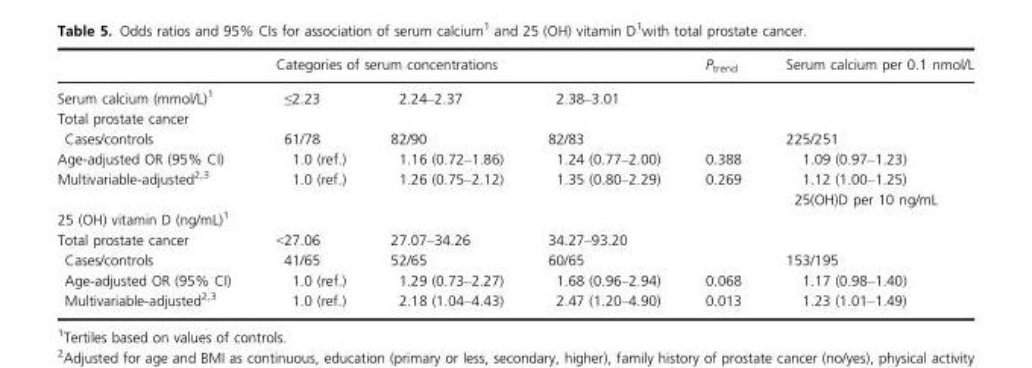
<table><thead><tr><td rowspan="2">Serum calcium (mmol/L)<sup>1</sup></td><td colspan="3">Categories of serum concentrations</td><td rowspan="2">P<sub>trend</sub></td><td rowspan="2">Serum calcium per 0.1 nmol/L</td></tr><tr><td>≤2.23</td><td>2.24–2.37</td><td>2.38–3.01</td></tr></thead><tbody><tr><td colspan="6">Total prostate cancer</td></tr><tr><td>Cases/controls</td><td>61/78</td><td>82/90</td><td>82/83</td><td></td><td>225/251</td></tr><tr><td>Age-adjusted OR (95% CI)</td><td>1.0 (ref.)</td><td>1.16 (0.72–1.86)</td><td>1.24 (0.77–2.00)</td><td>0.388</td><td>1.09 (0.97–1.23)</td></tr><tr><td rowspan="2">Multivariable-adjusted<sup>2,3</sup></td><td>1.0 (ref.)</td><td>1.26 (0.75–2.12)</td><td>1.35 (0.80–2.29)</td><td>0.269</td><td>1.12 (1.00–1.25)</td></tr><tr><td></td><td></td><td></td><td></td><td>25(OH)D per 10 ng/mL</td></tr><tr><td colspan="6">25 (OH) vitamin D (ng/mL)<sup>1</sup></td></tr><tr><td>Total prostate cancer</td><td>&lt;27.06</td><td>27.07–34.26</td><td>34.27–93.20</td><td></td><td></td></tr><tr><td>Cases/controls</td><td>41/65</td><td>52/65</td><td>60/65</td><td></td><td>153/195</td></tr><tr><td>Age-adjusted OR (95% CI)</td><td>1.0 (ref.)</td><td>1.29 (0.73–2.27)</td><td>1.68 (0.96–2.94)</td><td>0.068</td><td>1.17 (0.98–1.40)</td></tr><tr><td>Multivariable-adjusted<sup>2,3</sup></td><td>1.0 (ref.)</td><td>2.18 (1.04–4.43)</td><td>2.47 (1.20–4.90)</td><td>0.013</td><td>1.23 (1.01–1.49)</td></tr></tbody></table>